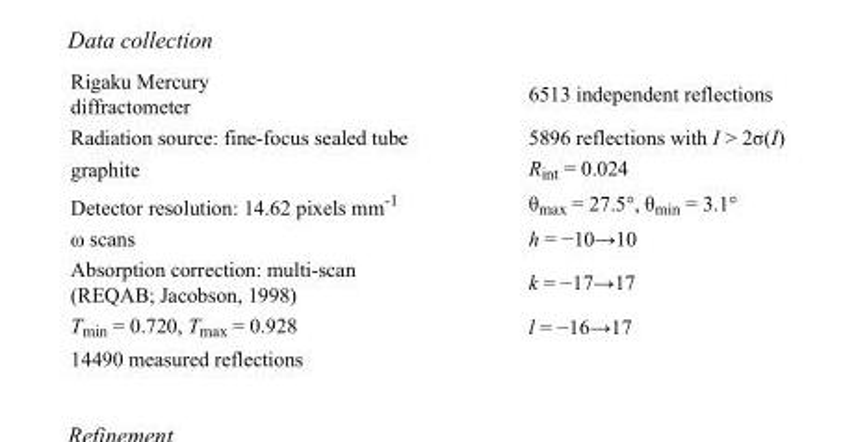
<table><tbody><tr><td>Rigaku Mercury diffractometer</td><td>6513 independent reflections</td></tr><tr><td>Radiation source: fine-focus sealed tube</td><td>5896 reflections with I &gt; 2σ(I)</td></tr><tr><td>graphite</td><td>R<sub>int</sub> = 0.024</td></tr><tr><td>Detector resolution: 14.62 pixels mm<sup>-1</sup></td><td>θ<sub>max</sub> = 27.5°, θ<sub>min</sub> = 3.1°</td></tr><tr><td>ω scans</td><td>h = −10→10</td></tr><tr><td>Absorption correction: multi-scan (REQAB; Jacobson, 1998)</td><td>k = −17→17</td></tr><tr><td>T<sub>min</sub> = 0.720, T<sub>max</sub> = 0.928</td><td>l = −16→17</td></tr><tr><td>14490 measured reflections</td><td></td></tr></tbody></table>